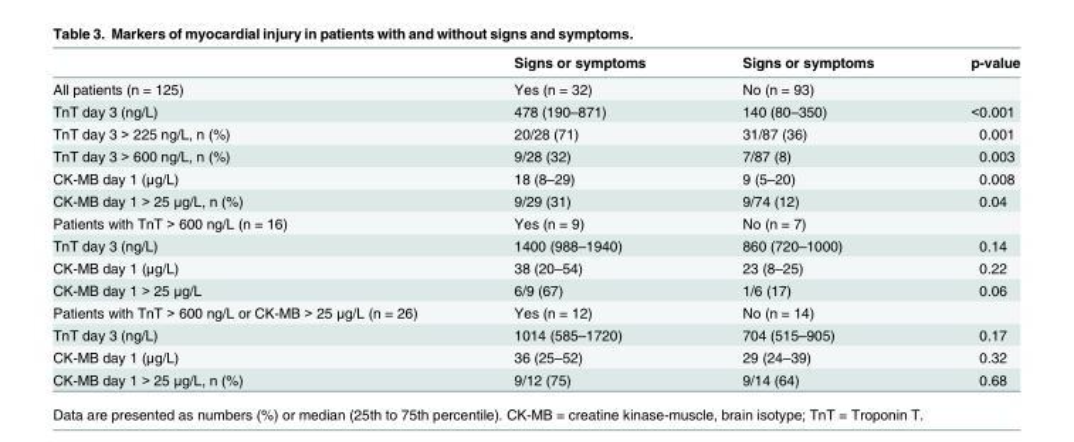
<table><thead><tr><td></td><td>Signs or symptoms</td><td>Signs or symptoms</td><td>p-value</td></tr></thead><tbody><tr><td>All patients (n = 125)</td><td>Yes (n = 32)</td><td>No (n = 93)</td><td></td></tr><tr><td>TnT day 3 (ng/L)</td><td>478 (190–871)</td><td>140 (80–350)</td><td>&lt;0.001</td></tr><tr><td>TnT day 3 &gt; 225 ng/L, n (%)</td><td>20/28 (71)</td><td>31/87 (36)</td><td>0.001</td></tr><tr><td>TnT day 3 &gt; 600 ng/L, n (%)</td><td>9/28 (32)</td><td>7/87 (8)</td><td>0.003</td></tr><tr><td>CK-MB day 1 (μg/L)</td><td>18 (8–29)</td><td>9 (5–20)</td><td>0.008</td></tr><tr><td>CK-MB day 1 &gt; 25 μg/L, n (%)</td><td>9/29 (31)</td><td>9/74 (12)</td><td>0.04</td></tr><tr><td>Patients with TnT &gt; 600 ng/L (n = 16)</td><td>Yes (n = 9)</td><td>No (n = 7)</td><td></td></tr><tr><td>TnT day 3 (ng/L)</td><td>1400 (988–1940)</td><td>860 (720–1000)</td><td>0.14</td></tr><tr><td>CK-MB day 1 (μg/L)</td><td>38 (20–54)</td><td>23 (8–25)</td><td>0.22</td></tr><tr><td>CK-MB day 1 &gt; 25 μg/L</td><td>6/9 (67)</td><td>1/6 (17)</td><td>0.06</td></tr><tr><td>Patients with TnT &gt; 600 ng/L or CK-MB &gt; 25 μg/L (n = 26)</td><td>Yes (n = 12)</td><td>No (n = 14)</td><td></td></tr><tr><td>TnT day 3 (ng/L)</td><td>1014 (585–1720)</td><td>704 (515–905)</td><td>0.17</td></tr><tr><td>CK-MB day 1 (μg/L)</td><td>36 (25–52)</td><td>29 (24–39)</td><td>0.32</td></tr><tr><td>CK-MB day 1 &gt; 25 μg/L, n (%)</td><td>9/12 (75)</td><td>9/14 (64)</td><td>0.68</td></tr></tbody></table>